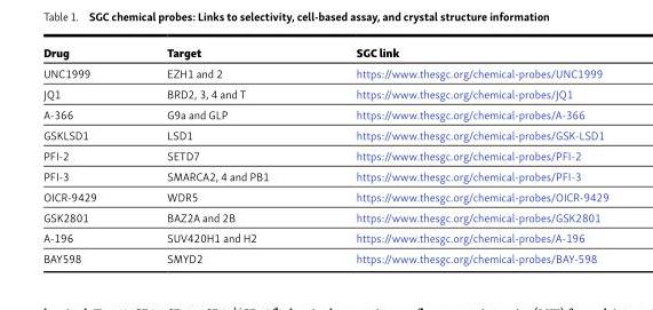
<table><thead><tr><td>Drug</td><td>Target</td><td>SGC link</td></tr></thead><tbody><tr><td>UNC1999</td><td>EZH1 and 2</td><td>https:// www .thesgc .org/ chemical -probes/ UNC1999</td></tr><tr><td>JQ1</td><td>BRD2, 3, 4 and T</td><td>https:// www .thesgc .org/ chemical -probes/ JQ1</td></tr><tr><td>A-366</td><td>G9a and GLP</td><td>https:// www .thesgc .org/ chemical -probes/ A -366</td></tr><tr><td>GSK LSD1</td><td>LSD1</td><td>https:// www .thesgc .org/ chemical -probes/ GSK -LSD1</td></tr><tr><td>PFI-2</td><td>SETD7</td><td>https:// www .thesgc .org/ chemical -probes/ PFI -2</td></tr><tr><td>PFI-3</td><td>SMA RCA2, 4 and PB1</td><td>https:// www .thesgc .org/ chemical -probes/ PFI -3</td></tr><tr><td>OICR-9429</td><td>WDR5</td><td>https:// www .thesgc .org/ chemical -probes/ OICR -9429</td></tr><tr><td>GSK2801</td><td>BAZ2A and 2B</td><td>https:// www .thesgc .org/ chemical -probes/ GSK2801</td></tr><tr><td>A-196</td><td>SUV420H1 and H2</td><td>https:// www .thesgc .org/ chemical -probes/ A -196</td></tr><tr><td>BAY598</td><td>SMYD2</td><td>https:// www .thesgc .org/ chemical -probes/ BAY -598</td></tr></tbody></table>